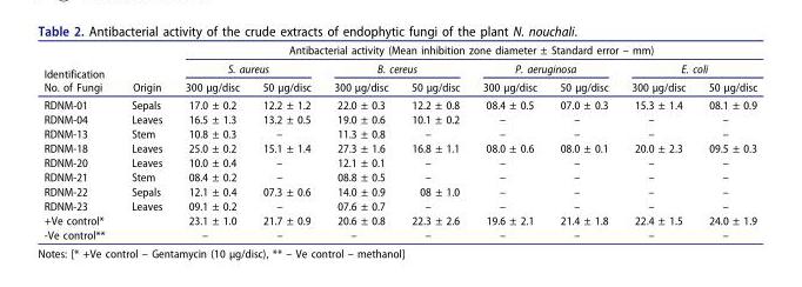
<table><thead><tr><td rowspan="3">Identification No. of Fungi</td><td rowspan="3">Origin</td><td colspan="8">Antibacterial activity (Mean inhibition zone diameter ± Standard error – mm)</td></tr><tr><td colspan="2">S. aureus</td><td colspan="2">B. cereus</td><td colspan="2">P. aeruginosa</td><td colspan="2">E. coli</td></tr><tr><td>300 µg/disc</td><td>50 µg/disc</td><td>300 µg/disc</td><td>50 µg/disc</td><td>300 µg/disc</td><td>50 µg/disc</td><td>300 µg/disc</td><td>50 µg/disc</td></tr></thead><tbody><tr><td>RDNM-01</td><td>Sepals</td><td>17.0 ± 0.2</td><td>12.2 ± 1.2</td><td>22.0 ± 0.3</td><td>12.2 ± 0.8</td><td>08.4 ± 0.5</td><td>07.0 ± 0.3</td><td>15.3 ± 1.4</td><td>08.1 ± 0.9</td></tr><tr><td>RDNM-04</td><td>Leaves</td><td>16.5 ± 1.3</td><td>13.2 ± 0.5</td><td>19.0 ± 0.6</td><td>10.1 ± 0.2</td><td>–</td><td>–</td><td>–</td><td>–</td></tr><tr><td>RDNM-13</td><td>Stem</td><td>10.8 ± 0.3</td><td>–</td><td>11.3 ± 0.8</td><td>–</td><td>–</td><td>–</td><td>–</td><td>–</td></tr><tr><td>RDNM-18</td><td>Leaves</td><td>25.0 ± 0.2</td><td>15.1 ± 1.4</td><td>27.3 ± 1.6</td><td>16.8 ± 1.1</td><td>08.0 ± 0.6</td><td>08.0 ± 0.1</td><td>20.0 ± 2.3</td><td>09.5 ± 0.3</td></tr><tr><td>RDNM-20</td><td>Leaves</td><td>10.0 ± 0.4</td><td>–</td><td>12.1 ± 0.1</td><td>–</td><td>–</td><td>–</td><td>–</td><td>–</td></tr><tr><td>RDNM-21</td><td>Stem</td><td>08.4 ± 0.2</td><td>–</td><td>08.8 ± 0.5</td><td>–</td><td>–</td><td>–</td><td>–</td><td>–</td></tr><tr><td>RDNM-22</td><td>Sepals</td><td>12.1 ± 0.4</td><td>07.3 ± 0.6</td><td>14.0 ± 0.9</td><td>08 ± 1.0</td><td>–</td><td>–</td><td>–</td><td>–</td></tr><tr><td>RDNM-23</td><td>Leaves</td><td>09.1 ± 0.2</td><td>–</td><td>07.6 ± 0.7</td><td>–</td><td>–</td><td>–</td><td>–</td><td>–</td></tr><tr><td>+Ve control*</td><td></td><td>23.1 ± 1.0</td><td>21.7 ± 0.9</td><td>20.6 ± 0.8</td><td>22.3 ± 2.6</td><td>19.6 ± 2.1</td><td>21.4 ± 1.8</td><td>22.4 ± 1.5</td><td>24.0 ± 1.9</td></tr><tr><td>-Ve control**</td><td></td><td>–</td><td>–</td><td>–</td><td>–</td><td>–</td><td>–</td><td>–</td><td>–</td></tr></tbody></table>